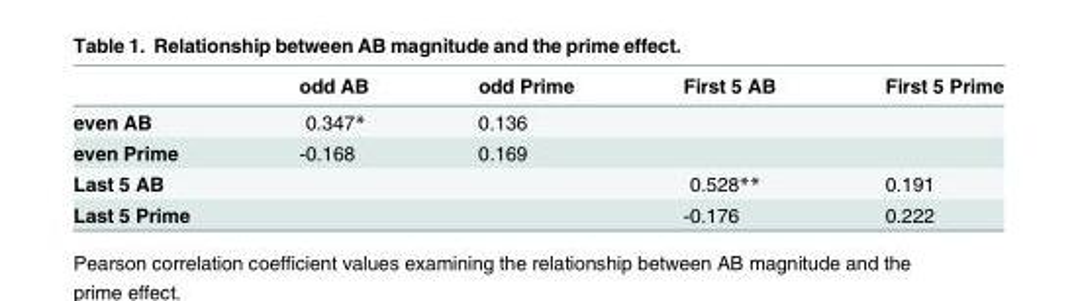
<table><thead><tr><td></td><td>odd AB</td><td>odd Prime</td><td>First 5 AB</td><td>First 5 Prime</td></tr></thead><tbody><tr><td>even AB</td><td>0.347*</td><td>0.136</td><td></td><td></td></tr><tr><td>even Prime</td><td>-0.168</td><td>0.169</td><td></td><td></td></tr><tr><td>Last 5 AB</td><td></td><td></td><td>0.528**</td><td>0.191</td></tr><tr><td>Last 5 Prime</td><td></td><td></td><td>-0.176</td><td>0.222</td></tr></tbody></table>